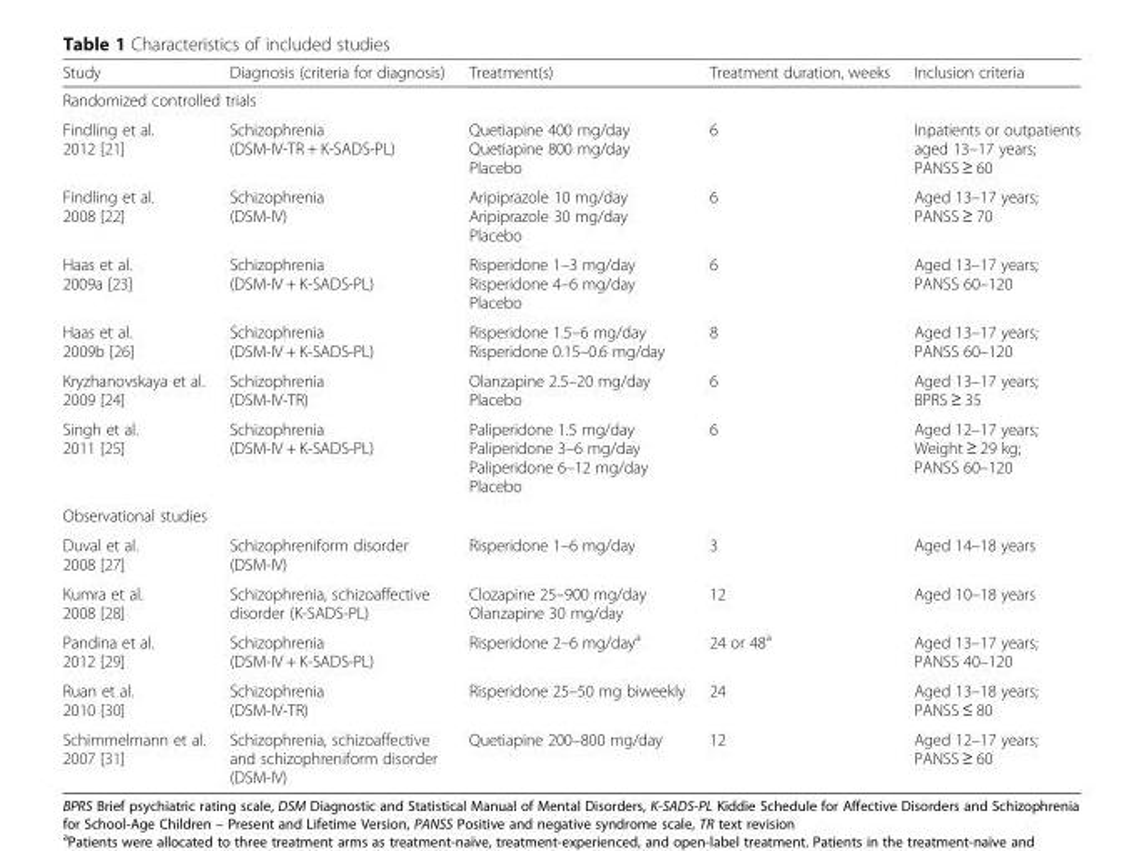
<table><thead><tr><td>Study</td><td>Diagnosis (criteria for diagnosis)</td><td>Treatment(s)</td><td>Treatment duration, weeks</td><td>Inclusion criteria</td></tr></thead><tbody><tr><td colspan="5">Randomized controlled trials</td></tr><tr><td>Findling et al. 2012 [21]</td><td>Schizophrenia (DSM-IV-TR + K-SADS-PL)</td><td>Quetiapine 400 mg/day Quetiapine 800 mg/day Placebo</td><td>6</td><td>Inpatients or outpatients aged 13–17 years; PANSS ≥ 60</td></tr><tr><td>Findling et al. 2008 [22]</td><td>Schizophrenia (DSM-IV)</td><td>Aripiprazole 10 mg/day Aripiprazole 30 mg/day Placebo</td><td>6</td><td>Aged 13–17 years; PANSS ≥ 70</td></tr><tr><td>Haas et al. 2009a [23]</td><td>Schizophrenia (DSM-IV + K-SADS-PL)</td><td>Risperidone 1–3 mg/day Risperidone 4–6 mg/day Placebo</td><td>6</td><td>Aged 13–17 years; PANSS 60–120</td></tr><tr><td>Haas et al. 2009b [26]</td><td>Schizophrenia (DSM-IV + K-SADS-PL)</td><td>Risperidone 1.5–6 mg/day Risperidone 0.15–0.6 mg/day</td><td>8</td><td>Aged 13–17 years; PANSS 60–120</td></tr><tr><td>Kryzhanovskaya et al. 2009 [24]</td><td>Schizophrenia (DSM-IV-TR)</td><td>Olanzapine 2.5–20 mg/day Placebo</td><td>6</td><td>Aged 13–17 years; BPRS ≥ 35</td></tr><tr><td>Singh et al. 2011 [25]</td><td>Schizophrenia (DSM-IV + K-SADS-PL)</td><td>Paliperidone 1.5 mg/day Paliperidone 3–6 mg/day Paliperidone 6–12 mg/day Placebo</td><td>6</td><td>Aged 12–17 years; Weight ≥ 29 kg; PANSS 60–120</td></tr><tr><td colspan="5">Observational studies</td></tr><tr><td>Duval et al. 2008 [27]</td><td>Schizophreniform disorder (DSM-IV)</td><td>Risperidone 1–6 mg/day</td><td>3</td><td>Aged 14–18 years</td></tr><tr><td>Kumra et al. 2008 [28]</td><td>Schizophrenia, schizoaffective disorder (K-SADS-PL)</td><td>Clozapine 25–900 mg/day Olanzapine 30 mg/day</td><td>12</td><td>Aged 10–18 years</td></tr><tr><td>Pandina et al. 2012 [29]</td><td>Schizophrenia (DSM-IV + K-SADS-PL)</td><td>Risperidone 2–6 mg/day<sup>a</sup></td><td>24 or 48<sup>a</sup></td><td>Aged 13–17 years; PANSS 40–120</td></tr><tr><td>Ruan et al. 2010 [30]</td><td>Schizophrenia (DSM-IV-TR)</td><td>Risperidone 25–50 mg biweekly</td><td>24</td><td>Aged 13–18 years; PANSS ≤ 80</td></tr><tr><td>Schimmelmann et al. 2007 [31]</td><td>Schizophrenia, schizoaffective and schizophreniform disorder (DSM-IV)</td><td>Quetiapine 200–800 mg/day</td><td>12</td><td>Aged 12–17 years; PANSS ≥ 60</td></tr></tbody></table>